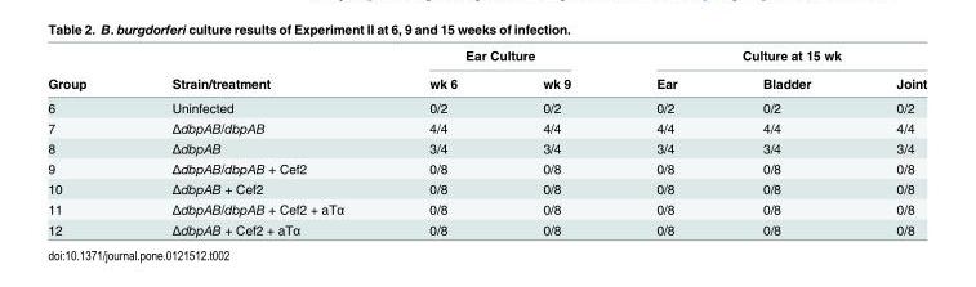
<table><thead><tr><td rowspan="2">Group</td><td rowspan="2">Strain/treatment</td><td colspan="2">Ear Culture</td><td colspan="3">Culture at 15 wk</td></tr><tr><td>wk 6</td><td>wk 9</td><td>Ear</td><td>Bladder</td><td>Joint</td></tr></thead><tbody><tr><td>6</td><td>Uninfected</td><td>0/2</td><td>0/2</td><td>0/2</td><td>0/2</td><td>0/2</td></tr><tr><td>7</td><td>ΔdbpAB/dbpAB</td><td>4/4</td><td>4/4</td><td>4/4</td><td>4/4</td><td>4/4</td></tr><tr><td>8</td><td>ΔdbpAB</td><td>3/4</td><td>3/4</td><td>3/4</td><td>3/4</td><td>3/4</td></tr><tr><td>9</td><td>ΔdbpAB/dbpAB + Cef2</td><td>0/8</td><td>0/8</td><td>0/8</td><td>0/8</td><td>0/8</td></tr><tr><td>10</td><td>ΔdbpAB + Cef2</td><td>0/8</td><td>0/8</td><td>0/8</td><td>0/8</td><td>0/8</td></tr><tr><td>11</td><td>ΔdbpAB/dbpAB + Cef2 + aTα</td><td>0/8</td><td>0/8</td><td>0/8</td><td>0/8</td><td>0/8</td></tr><tr><td>12</td><td>ΔdbpAB + Cef2 + aTα</td><td>0/8</td><td>0/8</td><td>0/8</td><td>0/8</td><td>0/8</td></tr></tbody></table>